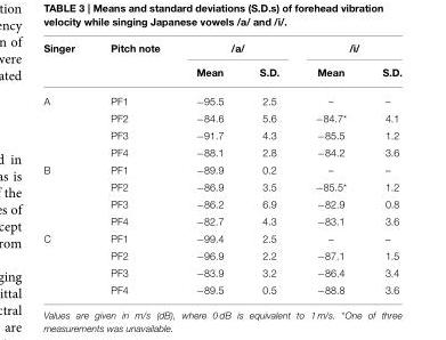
<table><thead><tr><td rowspan="2">Singer</td><td rowspan="2">Pitch note</td><td colspan="2">/a/</td><td colspan="2">/i/</td></tr><tr><td>Mean</td><td>S.D.</td><td>Mean</td><td>S.D.</td></tr></thead><tbody><tr><td rowspan="4">A</td><td>PF1</td><td>−95.5</td><td>2.5</td><td>–</td><td>–</td></tr><tr><td>PF2</td><td>−84.6</td><td>5.6</td><td>−84.7*</td><td>4.1</td></tr><tr><td>PF3</td><td>−91.7</td><td>4.3</td><td>−85.5</td><td>1.2</td></tr><tr><td>PF4</td><td>−88.1</td><td>2.8</td><td>−84.2</td><td>3.6</td></tr><tr><td rowspan="4">B</td><td>PF1</td><td>−89.9</td><td>0.2</td><td>–</td><td>–</td></tr><tr><td>PF2</td><td>−86.9</td><td>3.5</td><td>−85.5*</td><td>1.2</td></tr><tr><td>PF3</td><td>−86.2</td><td>6.9</td><td>−82.9</td><td>0.8</td></tr><tr><td>PF4</td><td>−82.7</td><td>4.3</td><td>−83.1</td><td>3.6</td></tr><tr><td rowspan="4">C</td><td>PF1</td><td>−99.4</td><td>2.5</td><td>–</td><td>–</td></tr><tr><td>PF2</td><td>−96.9</td><td>2.2</td><td>−87.1</td><td>1.5</td></tr><tr><td>PF3</td><td>−83.9</td><td>3.2</td><td>−86.4</td><td>3.4</td></tr><tr><td>PF4</td><td>−89.5</td><td>0.5</td><td>−88.8</td><td>3.6</td></tr></tbody></table>